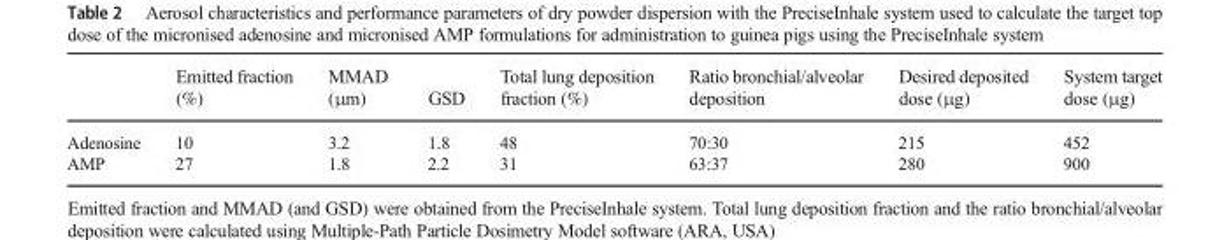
<table><thead><tr><td></td><td>Emitted fraction (%)</td><td>MMAD (μm)</td><td>GSD</td><td>Total lung deposition fraction (%)</td><td>Ratio bronchial/alveolar deposition</td><td>Desired deposited dose (μg)</td><td>System target dose (μg)</td></tr></thead><tbody><tr><td>Adenosine</td><td>10</td><td>3.2</td><td>1.8</td><td>48</td><td>70:30</td><td>215</td><td>452</td></tr><tr><td>AMP</td><td>27</td><td>1.8</td><td>2.2</td><td>31</td><td>63:37</td><td>280</td><td>900</td></tr></tbody></table>